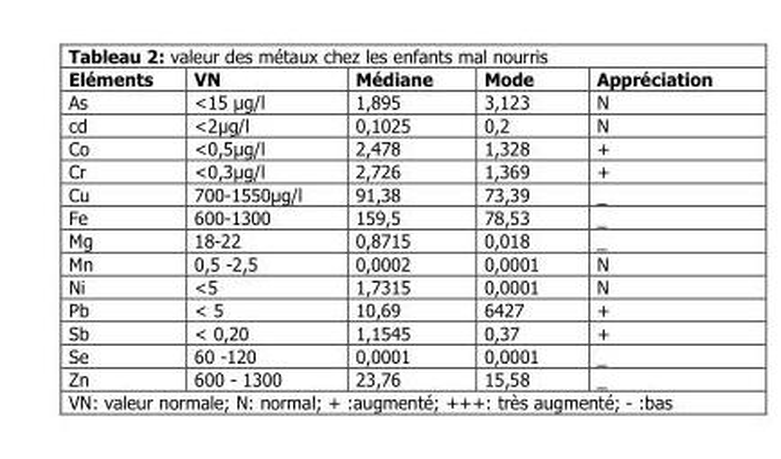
<table><thead><tr><td>Eléments</td><td>VN</td><td>Médiane</td><td>Mode</td><td>Appréciation</td></tr></thead><tbody><tr><td>As</td><td>&lt;15 µg/l</td><td>1,895</td><td>3,123</td><td>N</td></tr><tr><td>cd</td><td>&lt;2µg/l</td><td>0,1025</td><td>0,2</td><td>N</td></tr><tr><td>Co</td><td>&lt;0,5µg/l</td><td>2,478</td><td>1,328</td><td>+</td></tr><tr><td>Cr</td><td>&lt;0,3µg/l</td><td>2,726</td><td>1,369</td><td>+</td></tr><tr><td>Cu</td><td>700-1550µg/l</td><td>91,38</td><td>73,39</td><td>–</td></tr><tr><td>Fe</td><td>600-1300</td><td>159,5</td><td>78,53</td><td>–</td></tr><tr><td>Mg</td><td>18-22</td><td>0,8715</td><td>0,018</td><td>–</td></tr><tr><td>Mn</td><td>0,5 -2,5</td><td>0,0002</td><td>0,0001</td><td>N</td></tr><tr><td>Ni</td><td>&lt;5</td><td>1,7315</td><td>0,0001</td><td>N</td></tr><tr><td>Pb</td><td>&lt; 5</td><td>10,69</td><td>6427</td><td>+</td></tr><tr><td>Sb</td><td>&lt; 0,20</td><td>1,1545</td><td>0,37</td><td>+</td></tr><tr><td>Se</td><td>60 -120</td><td>0,0001</td><td>0,0001</td><td>–</td></tr><tr><td>Zn</td><td>600 - 1300</td><td>23,76</td><td>15,58</td><td>–</td></tr></tbody></table>